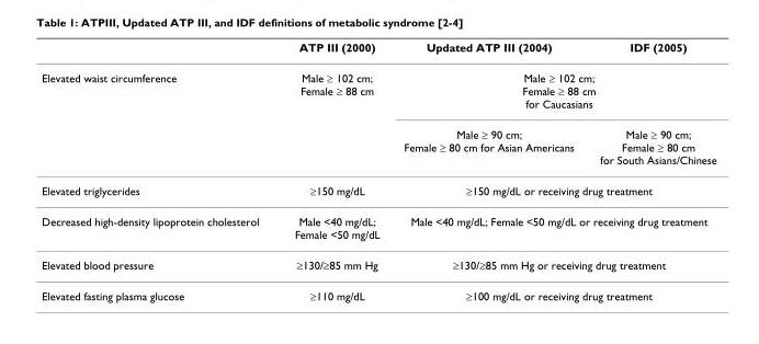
<table><thead><tr><td></td><td>ATP III (2000)</td><td>Updated ATP III (2004)</td><td>IDF (2005)</td></tr></thead><tbody><tr><td rowspan="2">Elevated waist circumference</td><td>Male ≥ 102 cm; Female ≥ 88 cm</td><td colspan="2">Male ≥ 102 cm; Female ≥ 88 cm for Caucasians</td></tr><tr><td></td><td>Male ≥ 90 cm; Female ≥ 80 cm for Asian Americans</td><td>Male ≥ 90 cm; Female ≥ 80 cm for South Asians/Chinese</td></tr><tr><td>Elevated triglycerides</td><td>≥150 mg/dL</td><td colspan="2">≥150 mg/dL or receiving drug treatment</td></tr><tr><td>Decreased high-density lipoprotein cholesterol</td><td>Male &lt;40 mg/dL; Female &lt;50 mg/dL</td><td colspan="2">Male &lt;40 mg/dL; Female &lt;50 mg/dL or receiving drug treatment</td></tr><tr><td>Elevated blood pressure</td><td>≥130/≥85 mm Hg</td><td colspan="2">≥130/≥85 mm Hg or receiving drug treatment</td></tr><tr><td>Elevated fasting plasma glucose</td><td>≥110 mg/dL</td><td colspan="2">≥100 mg/dL or receiving drug treatment</td></tr></tbody></table>